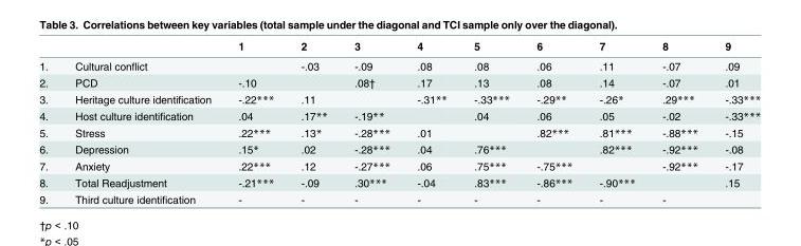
<table><thead><tr><td></td><td></td><td>1</td><td>2</td><td>3</td><td>4</td><td>5</td><td>6</td><td>7</td><td>8</td><td>9</td></tr></thead><tbody><tr><td>1.</td><td>Cultural conflict</td><td></td><td>-.03</td><td>-.09</td><td>.08</td><td>.08</td><td>.06</td><td>.11</td><td>-.07</td><td>.09</td></tr><tr><td>2.</td><td>PCD</td><td>-.10</td><td></td><td>.08†</td><td>.17</td><td>.13</td><td>.08</td><td>.14</td><td>-.07</td><td>.01</td></tr><tr><td>3.</td><td>Heritage culture identification</td><td>-.22***</td><td>.11</td><td></td><td>-.31**</td><td>-.33***</td><td>-.29**</td><td>-.26*</td><td>.29***</td><td>-.33***</td></tr><tr><td>4.</td><td>Host culture identification</td><td>.04</td><td>.17**</td><td>-.19**</td><td></td><td>.04</td><td>.06</td><td>.05</td><td>-.02</td><td>-.33***</td></tr><tr><td>5.</td><td>Stress</td><td>.22***</td><td>.13*</td><td>-.28***</td><td>.01</td><td></td><td>.82***</td><td>.81***</td><td>-.88***</td><td>-.15</td></tr><tr><td>6.</td><td>Depression</td><td>.15*</td><td>.02</td><td>-.28***</td><td>.04</td><td>.76***</td><td></td><td>.82***</td><td>-.92***</td><td>-.08</td></tr><tr><td>7.</td><td>Anxiety</td><td>.22***</td><td>.12</td><td>-.27***</td><td>.06</td><td>.75***</td><td>-.75***</td><td></td><td>-.92***</td><td>-.17</td></tr><tr><td>8.</td><td>Total Readjustment</td><td>-.21***</td><td>-.09</td><td>.30***</td><td>-.04</td><td>.83***</td><td>-.86***</td><td>-.90***</td><td></td><td>.15</td></tr><tr><td>9.</td><td>Third culture identification</td><td>-</td><td>-</td><td>-</td><td>-</td><td>-</td><td>-</td><td>-</td><td>-</td><td></td></tr></tbody></table>